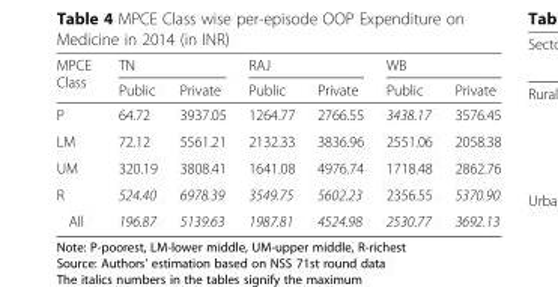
<table><thead><tr><td rowspan="2">MPCE Class</td><td colspan="2">TN</td><td colspan="2">RAJ</td><td colspan="2">WB</td></tr><tr><td>Public</td><td>Private</td><td>Public</td><td>Private</td><td>Public</td><td>Private</td></tr></thead><tbody><tr><td>P</td><td>64.72</td><td>3937.05</td><td>1264.77</td><td>2766.55</td><td>3438.17</td><td>3576.45</td></tr><tr><td>LM</td><td>72.12</td><td>5561.21</td><td>2132.33</td><td>3836.96</td><td>2551.06</td><td>2058.38</td></tr><tr><td>UM</td><td>320.19</td><td>3808.41</td><td>1641.08</td><td>4976.74</td><td>1718.48</td><td>2862.76</td></tr><tr><td>R</td><td>524.40</td><td>6978.39</td><td>3549.75</td><td>5602.23</td><td>2356.55</td><td>5370.90</td></tr><tr><td>All</td><td>196.87</td><td>5139.63</td><td>1987.81</td><td>4524.98</td><td>2530.77</td><td>3692.13</td></tr></tbody></table>